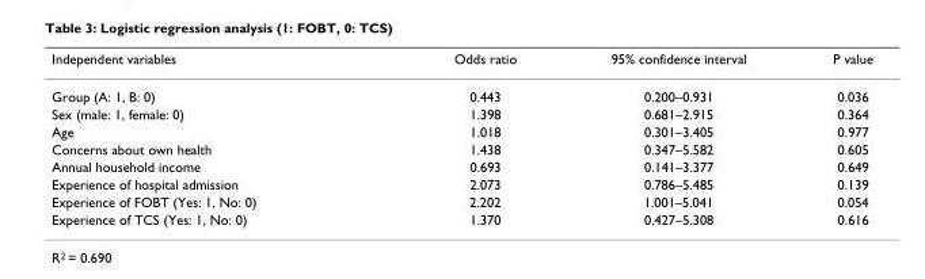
<table><thead><tr><td>Independent variables</td><td>Odds ratio</td><td>95% confidence interval</td><td>P value</td></tr></thead><tbody><tr><td>Group (A: 1, B: 0)</td><td>0.443</td><td>0.200–0.931</td><td>0.036</td></tr><tr><td>Sex (male: 1, female: 0)</td><td>1.398</td><td>0.681–2.915</td><td>0.364</td></tr><tr><td>Age</td><td>1.018</td><td>0.301–3.405</td><td>0.977</td></tr><tr><td>Concerns about own health</td><td>1.438</td><td>0.347–5.582</td><td>0.605</td></tr><tr><td>Annual household income</td><td>0.693</td><td>0.141–3.377</td><td>0.649</td></tr><tr><td>Experience of hospital admission</td><td>2.073</td><td>0.786–5.485</td><td>0.139</td></tr><tr><td>Experience of FOBT (Yes: 1, No: 0)</td><td>2.202</td><td>1.001–5.041</td><td>0.054</td></tr><tr><td>Experience of TCS (Yes: 1, No: 0)</td><td>1.370</td><td>0.427–5.308</td><td>0.616</td></tr></tbody></table>